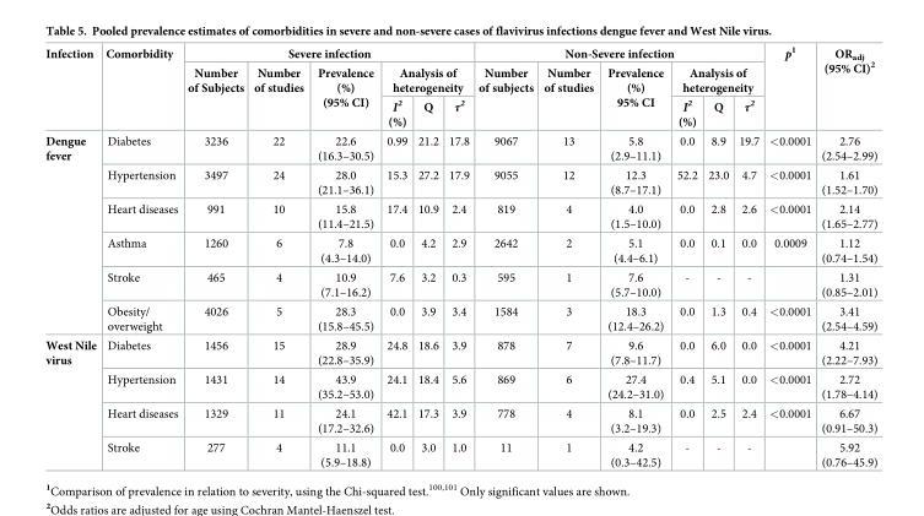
<table><thead><tr><td rowspan="3">Infection</td><td rowspan="3">Comorbidity</td><td colspan="6">Severe infection</td><td colspan="6">Non-Severe infection</td><td rowspan="3">p<sup>1</sup></td><td rowspan="3">OR<sub>adj</sub> (95% CI)<sup>2</sup></td></tr><tr><td rowspan="2">Number of Subjects</td><td rowspan="2">Number of studies</td><td rowspan="2">Prevalence (%) (95% CI)</td><td colspan="3">Analysis of heterogeneity</td><td rowspan="2">Number of subjects</td><td rowspan="2">Number of studies</td><td rowspan="2">Prevalence (%) 95% CI</td><td colspan="3">Analysis of heterogeneity</td></tr><tr><td>I<sup>2</sup> (%)</td><td>Q</td><td>τ<sup>2</sup></td><td>I<sup>2</sup> (%)</td><td>Q</td><td>τ<sup>2</sup></td></tr></thead><tbody><tr><td rowspan="6">Dengue fever</td><td>Diabetes</td><td>3236</td><td>22</td><td>22.6 (16.3–30.5)</td><td>0.99</td><td>21.2</td><td>17.8</td><td>9067</td><td>13</td><td>5.8 (2.9–11.1)</td><td>0.0</td><td>8.9</td><td>19.7</td><td>&lt;0.0001</td><td>2.76 (2.54–2.99)</td></tr><tr><td>Hypertension</td><td>3497</td><td>24</td><td>28.0 (21.1–36.1)</td><td>15.3</td><td>27.2</td><td>17.9</td><td>9055</td><td>12</td><td>12.3 (8.7–17.1)</td><td>52.2</td><td>23.0</td><td>4.7</td><td>&lt;0.0001</td><td>1.61 (1.52–1.70)</td></tr><tr><td>Heart diseases</td><td>991</td><td>10</td><td>15.8 (11.4–21.5)</td><td>17.4</td><td>10.9</td><td>2.4</td><td>819</td><td>4</td><td>4.0 (1.5–10.0)</td><td>0.0</td><td>2.8</td><td>2.6</td><td>&lt;0.0001</td><td>2.14 (1.65–2.77)</td></tr><tr><td>Asthma</td><td>1260</td><td>6</td><td>7.8 (4.3–14.0)</td><td>0.0</td><td>4.2</td><td>2.9</td><td>2642</td><td>2</td><td>5.1 (4.4–6.1)</td><td>0.0</td><td>0.1</td><td>0.0</td><td>0.0009</td><td>1.12 (0.74–1.54)</td></tr><tr><td>Stroke</td><td>465</td><td>4</td><td>10.9 (7.1–16.2)</td><td>7.6</td><td>3.2</td><td>0.3</td><td>595</td><td>1</td><td>7.6 (5.7–10.0)</td><td>-</td><td>-</td><td>-</td><td></td><td>1.31 (0.85–2.01)</td></tr><tr><td>Obesity/ overweight</td><td>4026</td><td>5</td><td>28.3 (15.8–45.5)</td><td>0.0</td><td>3.9</td><td>3.4</td><td>1584</td><td>3</td><td>18.3 (12.4–26.2)</td><td>0.0</td><td>1.3</td><td>0.4</td><td>&lt;0.0001</td><td>3.41 (2.54–4.59)</td></tr><tr><td rowspan="4">West Nile virus</td><td>Diabetes</td><td>1456</td><td>15</td><td>28.9 (22.8–35.9)</td><td>24.8</td><td>18.6</td><td>3.9</td><td>878</td><td>7</td><td>9.6 (7.8–11.7)</td><td>0.0</td><td>6.0</td><td>0.0</td><td>&lt;0.0001</td><td>4.21 (2.22–7.93)</td></tr><tr><td>Hypertension</td><td>1431</td><td>14</td><td>43.9 (35.2–53.0)</td><td>24.1</td><td>18.4</td><td>5.6</td><td>869</td><td>6</td><td>27.4 (24.2–31.0)</td><td>0.4</td><td>5.1</td><td>0.0</td><td>&lt;0.0001</td><td>2.72 (1.78–4.14)</td></tr><tr><td>Heart diseases</td><td>1329</td><td>11</td><td>24.1 (17.2–32.6)</td><td>42.1</td><td>17.3</td><td>3.9</td><td>778</td><td>4</td><td>8.1 (3.2–19.3)</td><td>0.0</td><td>2.5</td><td>2.4</td><td>&lt;0.0001</td><td>6.67 (0.91–50.3)</td></tr><tr><td>Stroke</td><td>277</td><td>4</td><td>11.1 (5.9–18.8)</td><td>0.0</td><td>3.0</td><td>1.0</td><td>11</td><td>1</td><td>4.2 (0.3–42.5)</td><td>-</td><td>-</td><td>-</td><td></td><td>5.92 (0.76–45.9)</td></tr></tbody></table>